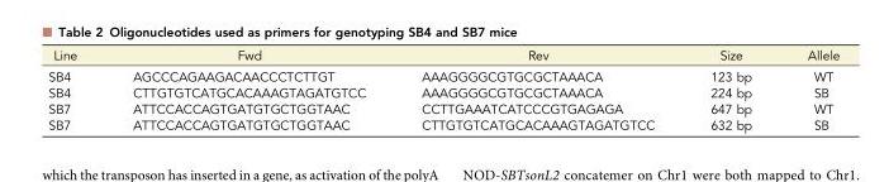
<table><thead><tr><td>Line</td><td>Fwd</td><td>Rev</td><td>Size</td><td>Allele</td></tr></thead><tbody><tr><td>SB4</td><td>AGCCCAGAAGACAACCCTCTTGT</td><td>AAAGGGGCGTGCGCTAAACA</td><td>123 bp</td><td>WT</td></tr><tr><td>SB4</td><td>CTTGTGTCATGCACAAAGTAGATGTCC</td><td>AAAGGGGCGTGCGCTAAACA</td><td>224 bp</td><td>SB</td></tr><tr><td>SB7</td><td>ATTCCACCAGTGATGTGCTGGTAAC</td><td>CCTTGAAATCATCCCGTGAGAGA</td><td>647 bp</td><td>WT</td></tr><tr><td>SB7</td><td>ATTCCACCAGTGATGTGCTGGTAAC</td><td>CTTGTGTCATGCACAAAGTAGATGTCC</td><td>632 bp</td><td>SB</td></tr></tbody></table>